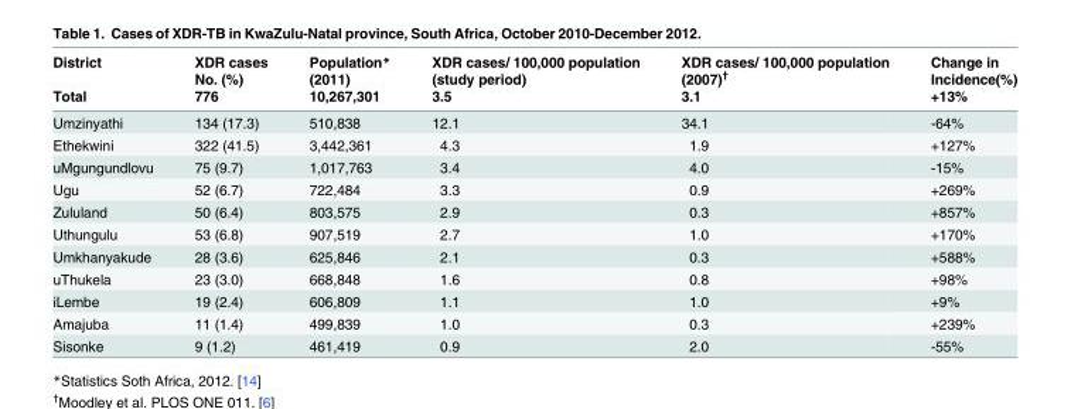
<table><thead><tr><td rowspan="2">District Total</td><td rowspan="2">XDR cases No. (%) 776</td><td rowspan="2">Population* (2011) 10,267,301</td><td rowspan="2">XDR cases/ 100,000 population (study period) 3.5</td><td rowspan="2">XDR cases/ 100,000 population (2007)<sup>†</sup> 3.1</td><td rowspan="2">Change in Incidence(%) +13%</td></tr><tr></tr></thead><tbody><tr><td>Umzinyathi</td><td>134 (17.3)</td><td>510,838</td><td>12.1</td><td>34.1</td><td>-64%</td></tr><tr><td>Ethekwini</td><td>322 (41.5)</td><td>3,442,361</td><td>4.3</td><td>1.9</td><td>+127%</td></tr><tr><td>uMgungundlovu</td><td>75 (9.7)</td><td>1,017,763</td><td>3.4</td><td>4.0</td><td>-15%</td></tr><tr><td>Ugu</td><td>52 (6.7)</td><td>722,484</td><td>3.3</td><td>0.9</td><td>+269%</td></tr><tr><td>Zululand</td><td>50 (6.4)</td><td>803,575</td><td>2.9</td><td>0.3</td><td>+857%</td></tr><tr><td>Uthungulu</td><td>53 (6.8)</td><td>907,519</td><td>2.7</td><td>1.0</td><td>+170%</td></tr><tr><td>Umkhanyakude</td><td>28 (3.6)</td><td>625,846</td><td>2.1</td><td>0.3</td><td>+588%</td></tr><tr><td>uThukela</td><td>23 (3.0)</td><td>668,848</td><td>1.6</td><td>0.8</td><td>+98%</td></tr><tr><td>iLembe</td><td>19 (2.4)</td><td>606,809</td><td>1.1</td><td>1.0</td><td>+9%</td></tr><tr><td>Amajuba</td><td>11 (1.4)</td><td>499,839</td><td>1.0</td><td>0.3</td><td>+239%</td></tr><tr><td>Sisonke</td><td>9 (1.2)</td><td>461,419</td><td>0.9</td><td>2.0</td><td>-55%</td></tr></tbody></table>